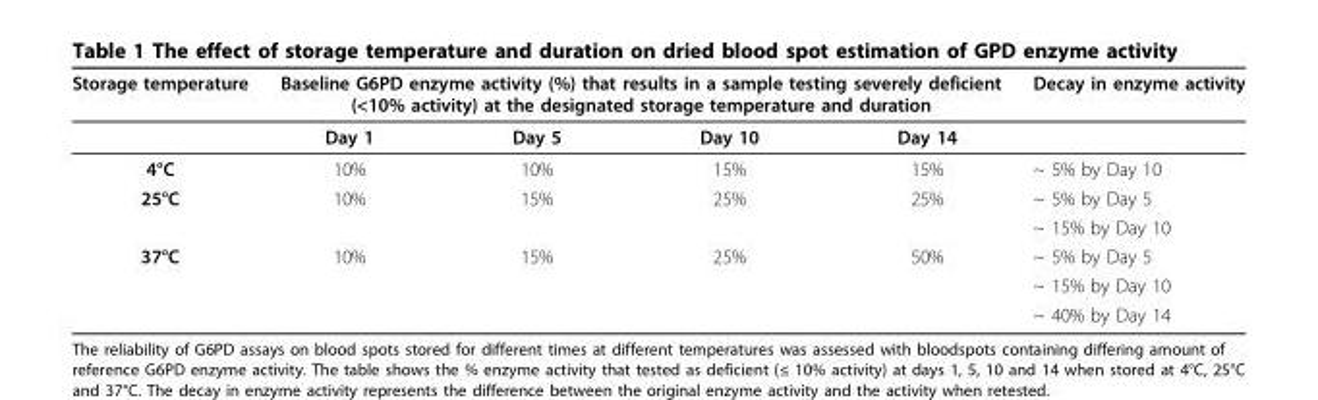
<table><thead><tr><td rowspan="2">Storage temperature</td><td colspan="4">Baseline G6PD enzyme activity (%) that results in a sample testing severely deficient (&lt;10% activity) at the designated storage temperature and duration</td><td rowspan="2">Decay in enzyme activity</td></tr><tr><td>Day 1</td><td>Day 5</td><td>Day 10</td><td>Day 14</td></tr></thead><tbody><tr><td>4°C</td><td>10%</td><td>10%</td><td>15%</td><td>15%</td><td>~ 5% by Day 10</td></tr><tr><td rowspan="2">25°C</td><td>10%</td><td>15%</td><td>25%</td><td>25%</td><td>~ 5% by Day 5</td></tr><tr><td></td><td></td><td></td><td></td><td>~ 15% by Day 10</td></tr><tr><td rowspan="3">37°C</td><td>10%</td><td>15%</td><td>25%</td><td>50%</td><td>~ 5% by Day 5</td></tr><tr><td></td><td></td><td></td><td></td><td>~ 15% by Day 10</td></tr><tr><td></td><td></td><td></td><td></td><td>~ 40% by Day 14</td></tr></tbody></table>